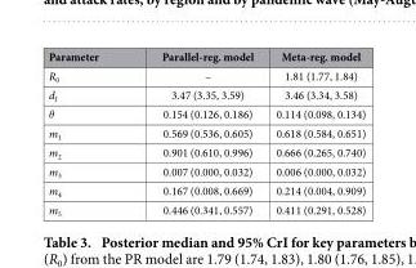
<table><thead><tr><td>Parameter</td><td>Parallel-reg. model</td><td>Meta-reg. model</td></tr></thead><tbody><tr><td>R<sub>0</sub></td><td>–</td><td>1.81 (1.77, 1.84)</td></tr><tr><td>d<sub>I</sub></td><td>3.47 (3.35, 3.59)</td><td>3.46 (3.34, 3.58)</td></tr><tr><td>θ</td><td>0.154 (0.126, 0.186)</td><td>0.114 (0.098, 0.134)</td></tr><tr><td>m<sub>1</sub></td><td>0.569 (0.536, 0.605)</td><td>0.618 (0.584, 0.651)</td></tr><tr><td>m<sub>2</sub></td><td>0.901 (0.610, 0.996)</td><td>0.666 (0.265, 0.740)</td></tr><tr><td>m<sub>3</sub></td><td>0.007 (0.000, 0.032)</td><td>0.006 (0.000, 0.032)</td></tr><tr><td>m<sub>4</sub></td><td>0.167 (0.008, 0.669)</td><td>0.214 (0.004, 0.909)</td></tr><tr><td>m<sub>5</sub></td><td>0.446 (0.341, 0.557)</td><td>0.411 (0.291, 0.528)</td></tr></tbody></table>